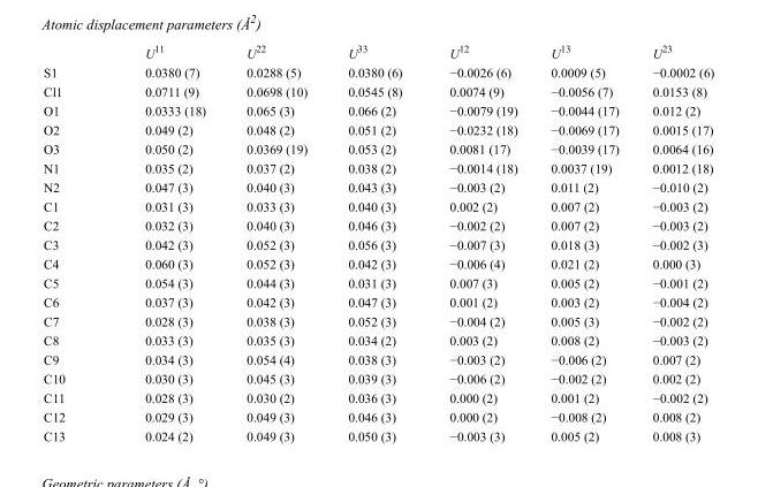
<table><thead><tr><td></td><td>U<sup>11</sup></td><td>U<sup>22</sup></td><td>U<sup>33</sup></td><td>U<sup>12</sup></td><td>U<sup>13</sup></td><td>U<sup>23</sup></td></tr></thead><tbody><tr><td>S1</td><td>0.0380 (7)</td><td>0.0288 (5)</td><td>0.0380 (6)</td><td>−0.0026 (6)</td><td>0.0009 (5)</td><td>−0.0002 (6)</td></tr><tr><td>Cl1</td><td>0.0711 (9)</td><td>0.0698 (10)</td><td>0.0545 (8)</td><td>0.0074 (9)</td><td>−0.0056 (7)</td><td>0.0153 (8)</td></tr><tr><td>O1</td><td>0.0333 (18)</td><td>0.065 (3)</td><td>0.066 (2)</td><td>−0.0079 (19)</td><td>−0.0044 (17)</td><td>0.012 (2)</td></tr><tr><td>O2</td><td>0.049 (2)</td><td>0.048 (2)</td><td>0.051 (2)</td><td>−0.0232 (18)</td><td>−0.0069 (17)</td><td>0.0015 (17)</td></tr><tr><td>O3</td><td>0.050 (2)</td><td>0.0369 (19)</td><td>0.053 (2)</td><td>0.0081 (17)</td><td>−0.0039 (17)</td><td>0.0064 (16)</td></tr><tr><td>N1</td><td>0.035 (2)</td><td>0.037 (2)</td><td>0.038 (2)</td><td>−0.0014 (18)</td><td>0.0037 (19)</td><td>0.0012 (18)</td></tr><tr><td>N2</td><td>0.047 (3)</td><td>0.040 (3)</td><td>0.043 (3)</td><td>−0.003 (2)</td><td>0.011 (2)</td><td>−0.010 (2)</td></tr><tr><td>C1</td><td>0.031 (3)</td><td>0.033 (3)</td><td>0.040 (3)</td><td>0.002 (2)</td><td>0.007 (2)</td><td>−0.003 (2)</td></tr><tr><td>C2</td><td>0.032 (3)</td><td>0.040 (3)</td><td>0.046 (3)</td><td>−0.002 (2)</td><td>0.007 (2)</td><td>−0.003 (2)</td></tr><tr><td>C3</td><td>0.042 (3)</td><td>0.052 (3)</td><td>0.056 (3)</td><td>−0.007 (3)</td><td>0.018 (3)</td><td>−0.002 (3)</td></tr><tr><td>C4</td><td>0.060 (3)</td><td>0.052 (3)</td><td>0.042 (3)</td><td>−0.006 (4)</td><td>0.021 (2)</td><td>0.000 (3)</td></tr><tr><td>C5</td><td>0.054 (3)</td><td>0.044 (3)</td><td>0.031 (3)</td><td>0.007 (3)</td><td>0.005 (2)</td><td>−0.001 (2)</td></tr><tr><td>C6</td><td>0.037 (3)</td><td>0.042 (3)</td><td>0.047 (3)</td><td>0.001 (2)</td><td>0.003 (2)</td><td>−0.004 (2)</td></tr><tr><td>C7</td><td>0.028 (3)</td><td>0.038 (3)</td><td>0.052 (3)</td><td>−0.004 (2)</td><td>0.005 (3)</td><td>−0.002 (2)</td></tr><tr><td>C8</td><td>0.033 (3)</td><td>0.035 (3)</td><td>0.034 (2)</td><td>0.003 (2)</td><td>0.008 (2)</td><td>−0.003 (2)</td></tr><tr><td>C9</td><td>0.034 (3)</td><td>0.054 (4)</td><td>0.038 (3)</td><td>−0.003 (2)</td><td>−0.006 (2)</td><td>0.007 (2)</td></tr><tr><td>C10</td><td>0.030 (3)</td><td>0.045 (3)</td><td>0.039 (3)</td><td>−0.006 (2)</td><td>−0.002 (2)</td><td>0.002 (2)</td></tr><tr><td>C11</td><td>0.028 (3)</td><td>0.030 (2)</td><td>0.036 (3)</td><td>0.000 (2)</td><td>0.001 (2)</td><td>−0.002 (2)</td></tr><tr><td>C12</td><td>0.029 (3)</td><td>0.049 (3)</td><td>0.046 (3)</td><td>0.000 (2)</td><td>−0.008 (2)</td><td>0.008 (2)</td></tr><tr><td>C13</td><td>0.024 (2)</td><td>0.049 (3)</td><td>0.050 (3)</td><td>−0.003 (3)</td><td>0.005 (2)</td><td>0.008 (3)</td></tr></tbody></table>